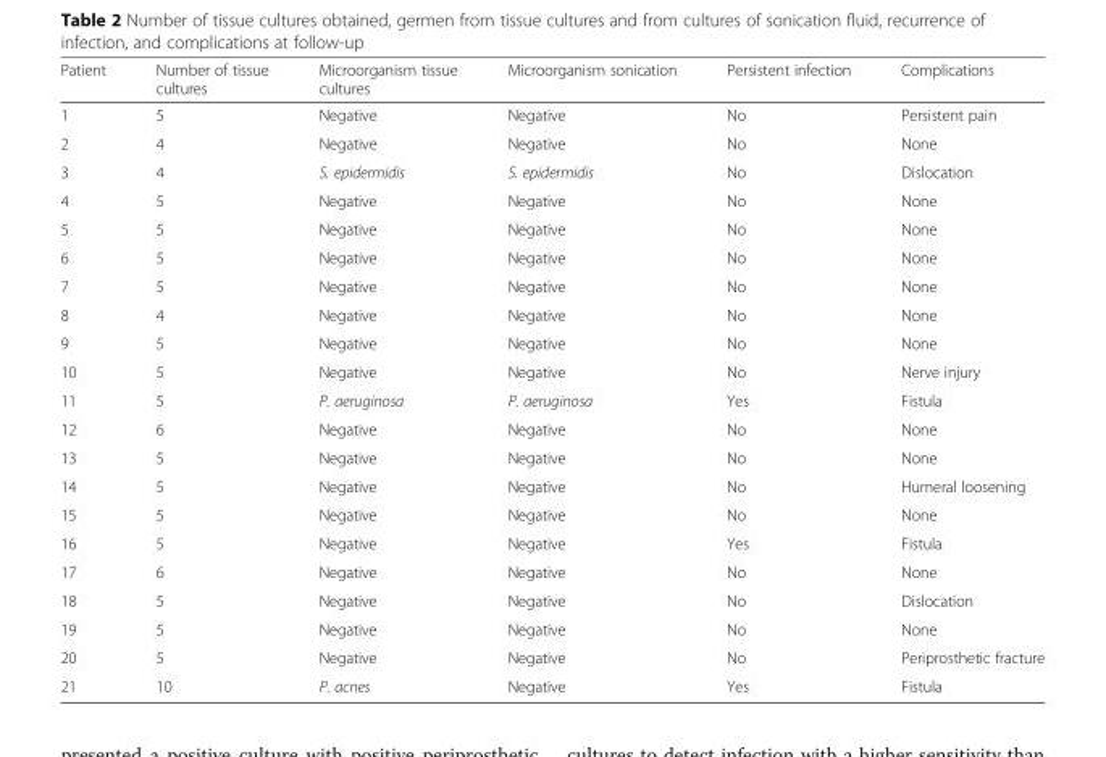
<table><thead><tr><td>Patient</td><td>Number of tissue cultures</td><td>Microorganism tissue cultures</td><td>Microorganism sonication</td><td>Persistent infection</td><td>Complications</td></tr></thead><tbody><tr><td>1</td><td>5</td><td>Negative</td><td>Negative</td><td>No</td><td>Persistent pain</td></tr><tr><td>2</td><td>4</td><td>Negative</td><td>Negative</td><td>No</td><td>None</td></tr><tr><td>3</td><td>4</td><td>S. epidermidis</td><td>S. epidermidis</td><td>No</td><td>Dislocation</td></tr><tr><td>4</td><td>5</td><td>Negative</td><td>Negative</td><td>No</td><td>None</td></tr><tr><td>5</td><td>5</td><td>Negative</td><td>Negative</td><td>No</td><td>None</td></tr><tr><td>6</td><td>5</td><td>Negative</td><td>Negative</td><td>No</td><td>None</td></tr><tr><td>7</td><td>5</td><td>Negative</td><td>Negative</td><td>No</td><td>None</td></tr><tr><td>8</td><td>4</td><td>Negative</td><td>Negative</td><td>No</td><td>None</td></tr><tr><td>9</td><td>5</td><td>Negative</td><td>Negative</td><td>No</td><td>None</td></tr><tr><td>10</td><td>5</td><td>Negative</td><td>Negative</td><td>No</td><td>Nerve injury</td></tr><tr><td>11</td><td>5</td><td>P. aeruginosa</td><td>P. aeruginosa</td><td>Yes</td><td>Fistula</td></tr><tr><td>12</td><td>6</td><td>Negative</td><td>Negative</td><td>No</td><td>None</td></tr><tr><td>13</td><td>5</td><td>Negative</td><td>Negative</td><td>No</td><td>None</td></tr><tr><td>14</td><td>5</td><td>Negative</td><td>Negative</td><td>No</td><td>Humeral loosening</td></tr><tr><td>15</td><td>5</td><td>Negative</td><td>Negative</td><td>No</td><td>None</td></tr><tr><td>16</td><td>5</td><td>Negative</td><td>Negative</td><td>Yes</td><td>Fistula</td></tr><tr><td>17</td><td>6</td><td>Negative</td><td>Negative</td><td>No</td><td>None</td></tr><tr><td>18</td><td>5</td><td>Negative</td><td>Negative</td><td>No</td><td>Dislocation</td></tr><tr><td>19</td><td>5</td><td>Negative</td><td>Negative</td><td>No</td><td>None</td></tr><tr><td>20</td><td>5</td><td>Negative</td><td>Negative</td><td>No</td><td>Periprosthetic fracture</td></tr><tr><td>21</td><td>10</td><td>P. acnes</td><td>Negative</td><td>Yes</td><td>Fistula</td></tr></tbody></table>